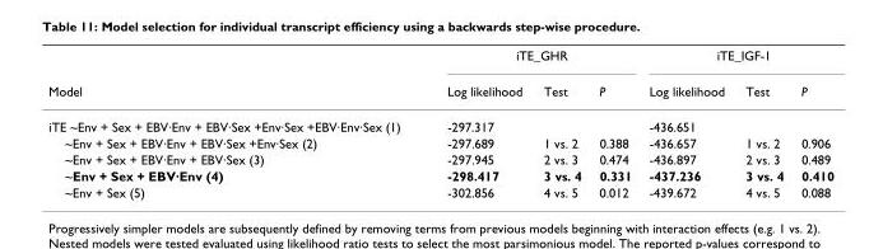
<table><thead><tr><td rowspan="2">Model</td><td colspan="3">iTE_GHR</td><td colspan="3">iTE_IGF-1</td></tr><tr><td>Log likelihood</td><td>Test</td><td>P</td><td>Log likelihood</td><td>Test</td><td>P</td></tr></thead><tbody><tr><td>iTE ~Env + Sex + EBV·Env + EBV·Sex +Env·Sex +EBV·Env·Sex (1)</td><td>-297.317</td><td></td><td></td><td>-436.651</td><td></td><td></td></tr><tr><td>~Env + Sex + EBV·Env + EBV·Sex +Env·Sex (2)</td><td>-297.689</td><td>1 vs. 2</td><td>0.388</td><td>-436.657</td><td>1 vs. 2</td><td>0.906</td></tr><tr><td>~Env + Sex + EBV·Env + EBV·Sex (3)</td><td>-297.945</td><td>2 vs. 3</td><td>0.474</td><td>-436.897</td><td>2 vs. 3</td><td>0.489</td></tr><tr><td>~Env + Sex + EBV·Env (4)</td><td>-298.417</td><td>3 vs. 4</td><td>0.331</td><td>-437.236</td><td>3 vs. 4</td><td>0.410</td></tr><tr><td>~Env + Sex (5)</td><td>-302.856</td><td>4 vs. 5</td><td>0.012</td><td>-439.672</td><td>4 vs. 5</td><td>0.088</td></tr></tbody></table>